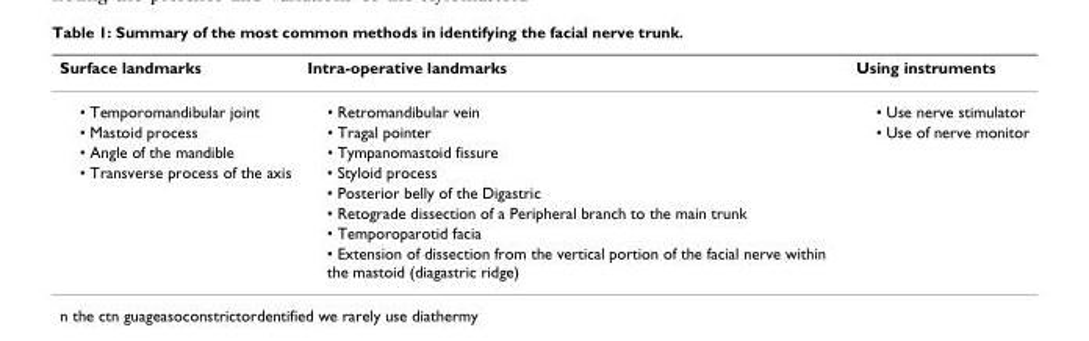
<table><thead><tr><td>Surface landmarks</td><td>Intra-operative landmarks</td><td>Using instruments</td></tr></thead><tbody><tr><td>• Temporomandibular joint</td><td>• Retromandibular vein</td><td>• Use nerve stimulator</td></tr><tr><td>• Mastoid process</td><td>• Tragal pointer</td><td>• Use of nerve monitor</td></tr><tr><td>• Angle of the mandible</td><td>• Tympanomastoid fissure</td><td></td></tr><tr><td rowspan="5">• Transverse process of the axis</td><td>• Styloid process</td><td></td></tr><tr><td>• Posterior belly of the Digastric</td><td></td></tr><tr><td>• Retograde dissection of a Peripheral branch to the main trunk</td><td></td></tr><tr><td>• Temporoparotid facia</td><td></td></tr><tr><td>• Extension of dissection from the vertical portion of the facial nerve within the mastoid (diagastric ridge)</td><td></td></tr></tbody></table>